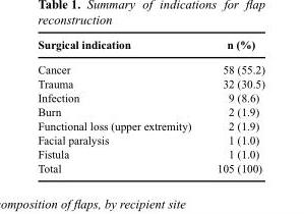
<table><thead><tr><td>Surgical indication</td><td>n (%)</td></tr></thead><tbody><tr><td>Cancer</td><td>58 (55.2)</td></tr><tr><td>Trauma</td><td>32 (30.5)</td></tr><tr><td>Infection</td><td>9 (8.6)</td></tr><tr><td>Burn</td><td>2 (1.9)</td></tr><tr><td>Functional loss (upper extremity)</td><td>2 (1.9)</td></tr><tr><td>Facial paralysis</td><td>1 (1.0)</td></tr><tr><td>Fistula</td><td>1 (1.0)</td></tr><tr><td>Total</td><td>105 (100)</td></tr></tbody></table>